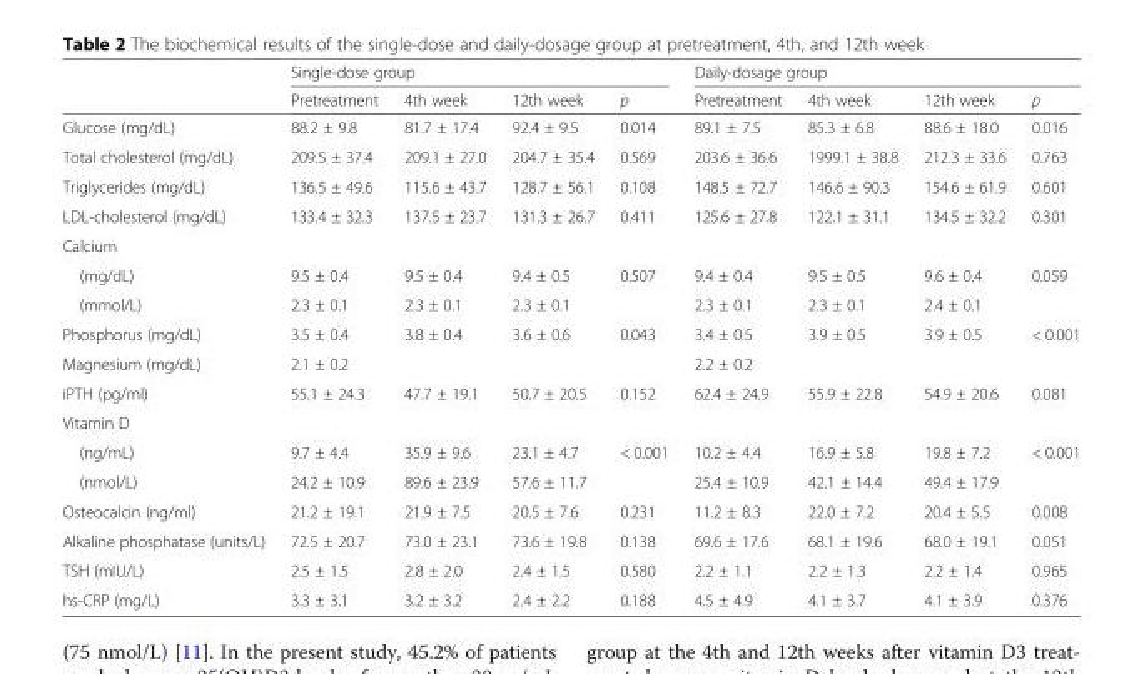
<table><thead><tr><td rowspan="2"></td><td colspan="4">Single-dose group</td><td colspan="4">Daily-dosage group</td></tr><tr><td>Pretreatment</td><td>4th week</td><td>12th week</td><td>p</td><td>Pretreatment</td><td>4th week</td><td>12th week</td><td>p</td></tr></thead><tbody><tr><td>Glucose (mg/dL)</td><td>88.2 ± 9.8</td><td>81.7 ± 17.4</td><td>92.4 ± 9.5</td><td>0.014</td><td>89.1 ± 7.5</td><td>85.3 ± 6.8</td><td>88.6 ± 18.0</td><td>0.016</td></tr><tr><td>Total cholesterol (mg/dL)</td><td>209.5 ± 37.4</td><td>209.1 ± 27.0</td><td>204.7 ± 35.4</td><td>0.569</td><td>203.6 ± 36.6</td><td>1999.1 ± 38.8</td><td>212.3 ± 33.6</td><td>0.763</td></tr><tr><td>Triglycerides (mg/dL)</td><td>136.5 ± 49.6</td><td>115.6 ± 43.7</td><td>128.7 ± 56.1</td><td>0.108</td><td>148.5 ± 72.7</td><td>146.6 ± 90.3</td><td>154.6 ± 61.9</td><td>0.601</td></tr><tr><td>LDL-cholesterol (mg/dL)</td><td>133.4 ± 32.3</td><td>137.5 ± 23.7</td><td>131.3 ± 26.7</td><td>0.411</td><td>125.6 ± 27.8</td><td>122.1 ± 31.1</td><td>134.5 ± 32.2</td><td>0.301</td></tr><tr><td colspan="9">Calcium</td></tr><tr><td>(mg/dL)</td><td>9.5 ± 0.4</td><td>9.5 ± 0.4</td><td>9.4 ± 0.5</td><td>0.507</td><td>9.4 ± 0.4</td><td>9.5 ± 0.5</td><td>9.6 ± 0.4</td><td>0.059</td></tr><tr><td>(mmol/L)</td><td>2.3 ± 0.1</td><td>2.3 ± 0.1</td><td>2.3 ± 0.1</td><td></td><td>2.3 ± 0.1</td><td>2.3 ± 0.1</td><td>2.4 ± 0.1</td><td></td></tr><tr><td>Phosphorus (mg/dL)</td><td>3.5 ± 0.4</td><td>3.8 ± 0.4</td><td>3.6 ± 0.6</td><td>0.043</td><td>3.4 ± 0.5</td><td>3.9 ± 0.5</td><td>3.9 ± 0.5</td><td>&lt; 0.001</td></tr><tr><td>Magnesium (mg/dL)</td><td>2.1 ± 0.2</td><td></td><td></td><td></td><td>2.2 ± 0.2</td><td></td><td></td><td></td></tr><tr><td>iPTH (pg/ml)</td><td>55.1 ± 24.3</td><td>47.7 ± 19.1</td><td>50.7 ± 20.5</td><td>0.152</td><td>62.4 ± 24.9</td><td>55.9 ± 22.8</td><td>54.9 ± 20.6</td><td>0.081</td></tr><tr><td colspan="9">Vitamin D</td></tr><tr><td>(ng/mL)</td><td>9.7 ± 4.4</td><td>35.9 ± 9.6</td><td>23.1 ± 4.7</td><td>&lt; 0.001</td><td>10.2 ± 4.4</td><td>16.9 ± 5.8</td><td>19.8 ± 7.2</td><td>&lt; 0.001</td></tr><tr><td>(nmol/L)</td><td>24.2 ± 10.9</td><td>89.6 ± 23.9</td><td>57.6 ± 11.7</td><td></td><td>25.4 ± 10.9</td><td>42.1 ± 14.4</td><td>49.4 ± 17.9</td><td></td></tr><tr><td>Osteocalcin (ng/ml)</td><td>21.2 ± 19.1</td><td>21.9 ± 7.5</td><td>20.5 ± 7.6</td><td>0.231</td><td>11.2 ± 8.3</td><td>22.0 ± 7.2</td><td>20.4 ± 5.5</td><td>0.008</td></tr><tr><td>Alkaline phosphatase (units/L)</td><td>72.5 ± 20.7</td><td>73.0 ± 23.1</td><td>73.6 ± 19.8</td><td>0.138</td><td>69.6 ± 17.6</td><td>68.1 ± 19.6</td><td>68.0 ± 19.1</td><td>0.051</td></tr><tr><td>TSH (mIU/L)</td><td>2.5 ± 1.5</td><td>2.8 ± 2.0</td><td>2.4 ± 1.5</td><td>0.580</td><td>2.2 ± 1.1</td><td>2.2 ± 1.3</td><td>2.2 ± 1.4</td><td>0.965</td></tr><tr><td>hs-CRP (mg/L)</td><td>3.3 ± 3.1</td><td>3.2 ± 3.2</td><td>2.4 ± 2.2</td><td>0.188</td><td>4.5 ± 4.9</td><td>4.1 ± 3.7</td><td>4.1 ± 3.9</td><td>0.376</td></tr></tbody></table>